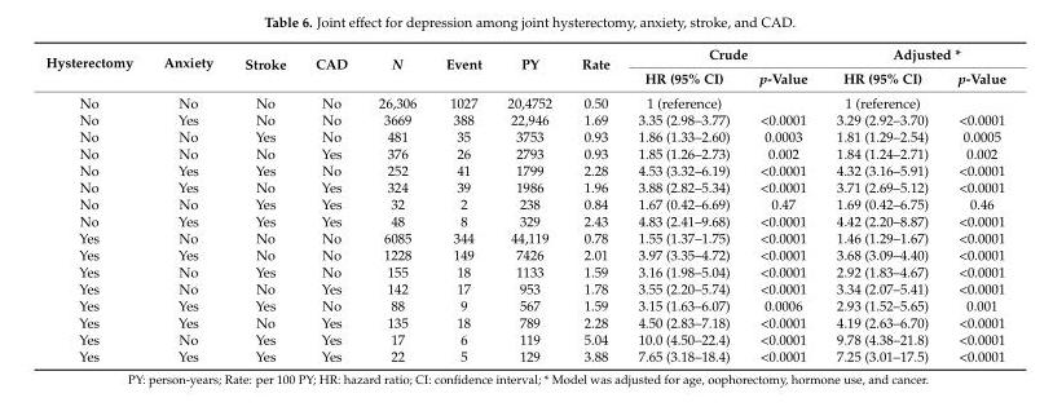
<table><thead><tr><td rowspan="2">Hysterectomy</td><td rowspan="2">Anxiety</td><td rowspan="2">Stroke</td><td rowspan="2">CAD</td><td rowspan="2">N</td><td rowspan="2">Event</td><td rowspan="2">PY</td><td rowspan="2">Rate</td><td colspan="2">Crude</td><td colspan="2">Adjusted *</td></tr><tr><td>HR (95% CI)</td><td>p-Value</td><td>HR (95% CI)</td><td>p-Value</td></tr></thead><tbody><tr><td>No</td><td>No</td><td>No</td><td>No</td><td>26,306</td><td>1027</td><td>20,4752</td><td>0.50</td><td>1 (reference)</td><td></td><td>1 (reference)</td><td></td></tr><tr><td>No</td><td>Yes</td><td>No</td><td>No</td><td>3669</td><td>388</td><td>22,946</td><td>1.69</td><td>3.35 (2.98–3.77)</td><td>&lt;0.0001</td><td>3.29 (2.92–3.70)</td><td>&lt;0.0001</td></tr><tr><td>No</td><td>No</td><td>Yes</td><td>No</td><td>481</td><td>35</td><td>3753</td><td>0.93</td><td>1.86 (1.33–2.60)</td><td>0.0003</td><td>1.81 (1.29–2.54)</td><td>0.0005</td></tr><tr><td>No</td><td>No</td><td>No</td><td>Yes</td><td>376</td><td>26</td><td>2793</td><td>0.93</td><td>1.85 (1.26–2.73)</td><td>0.002</td><td>1.84 (1.24–2.71)</td><td>0.002</td></tr><tr><td>No</td><td>Yes</td><td>Yes</td><td>No</td><td>252</td><td>41</td><td>1799</td><td>2.28</td><td>4.53 (3.32–6.19)</td><td>&lt;0.0001</td><td>4.32 (3.16–5.91)</td><td>&lt;0.0001</td></tr><tr><td>No</td><td>Yes</td><td>No</td><td>Yes</td><td>324</td><td>39</td><td>1986</td><td>1.96</td><td>3.88 (2.82–5.34)</td><td>&lt;0.0001</td><td>3.71 (2.69–5.12)</td><td>&lt;0.0001</td></tr><tr><td>No</td><td>No</td><td>Yes</td><td>Yes</td><td>32</td><td>2</td><td>238</td><td>0.84</td><td>1.67 (0.42–6.69)</td><td>0.47</td><td>1.69 (0.42–6.75)</td><td>0.46</td></tr><tr><td>No</td><td>Yes</td><td>Yes</td><td>Yes</td><td>48</td><td>8</td><td>329</td><td>2.43</td><td>4.83 (2.41–9.68)</td><td>&lt;0.0001</td><td>4.42 (2.20–8.87)</td><td>&lt;0.0001</td></tr><tr><td>Yes</td><td>No</td><td>No</td><td>No</td><td>6085</td><td>344</td><td>44,119</td><td>0.78</td><td>1.55 (1.37–1.75)</td><td>&lt;0.0001</td><td>1.46 (1.29–1.67)</td><td>&lt;0.0001</td></tr><tr><td>Yes</td><td>Yes</td><td>No</td><td>No</td><td>1228</td><td>149</td><td>7426</td><td>2.01</td><td>3.97 (3.35–4.72)</td><td>&lt;0.0001</td><td>3.68 (3.09–4.40)</td><td>&lt;0.0001</td></tr><tr><td>Yes</td><td>No</td><td>Yes</td><td>No</td><td>155</td><td>18</td><td>1133</td><td>1.59</td><td>3.16 (1.98–5.04)</td><td>&lt;0.0001</td><td>2.92 (1.83–4.67)</td><td>&lt;0.0001</td></tr><tr><td>Yes</td><td>No</td><td>No</td><td>Yes</td><td>142</td><td>17</td><td>953</td><td>1.78</td><td>3.55 (2.20–5.74)</td><td>&lt;0.0001</td><td>3.34 (2.07–5.41)</td><td>&lt;0.0001</td></tr><tr><td>Yes</td><td>Yes</td><td>Yes</td><td>No</td><td>88</td><td>9</td><td>567</td><td>1.59</td><td>3.15 (1.63–6.07)</td><td>0.0006</td><td>2.93 (1.52–5.65)</td><td>0.001</td></tr><tr><td>Yes</td><td>Yes</td><td>No</td><td>Yes</td><td>135</td><td>18</td><td>789</td><td>2.28</td><td>4.50 (2.83–7.18)</td><td>&lt;0.0001</td><td>4.19 (2.63–6.70)</td><td>&lt;0.0001</td></tr><tr><td>Yes</td><td>No</td><td>Yes</td><td>Yes</td><td>17</td><td>6</td><td>119</td><td>5.04</td><td>10.0 (4.50–22.4)</td><td>&lt;0.0001</td><td>9.78 (4.38–21.8)</td><td>&lt;0.0001</td></tr><tr><td>Yes</td><td>Yes</td><td>Yes</td><td>Yes</td><td>22</td><td>5</td><td>129</td><td>3.88</td><td>7.65 (3.18–18.4)</td><td>&lt;0.0001</td><td>7.25 (3.01–17.5)</td><td>&lt;0.0001</td></tr></tbody></table>